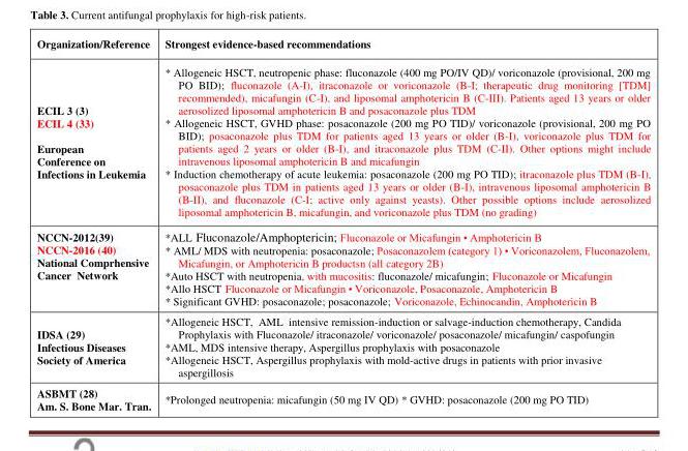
<table><thead><tr><td>Organization/Reference</td><td>Strongest evidence-based recommendations</td></tr></thead><tbody><tr><td>ECIL 3 (3) ECIL 4 (33) European Conference on Infections in Leukemia</td><td>* Allogeneic HSCT, neutropenic phase: fluconazole (400 mg PO/IV QD)/ voriconazole (provisional, 200 mg PO BID); fluconazole (A-I), itraconazole or voriconazole (B-I; therapeutic drug monitoring [TDM] recommended), micafungin (C-I), and liposomal amphotericin B (C-III). Patients aged 13 years or older aerosolized liposomal amphotericin B and posaconazole plus TDM * Allogeneic HSCT, GVHD phase: posaconazole (200 mg PO TID)/ voriconazole (provisional, 200 mg PO BID); posaconazole plus TDM for patients aged 13 years or older (B-I), voriconazole plus TDM for patients aged 2 years or older (B-I), and itraconazole plus TDM (C-II). Other options might include intravenous liposomal amphotericin B and micafungin * Induction chemotherapy of acute leukemia: posaconazole (200 mg PO TID); itraconazole plus TDM (B-I), posaconazole plus TDM in patients aged 13 years or older (B-I), intravenous liposomal amphotericin B (B-II), and fluconazole (C-I; active only against yeasts). Other possible options include aerosolized liposomal amphotericin B, micafungin, and voriconazole plus TDM (no grading)</td></tr><tr><td>NCCN-2012(39) NCCN-2016 (40) National Comprhensive Cancer Network</td><td>*ALL Fluconazole/Amphoptericin; Fluconazole or Micafungin • Amphotericin B * AML/ MDS with neutropenia: posaconazole; Posaconazolem (category 1) • Voriconazolem, Fluconazolem, Micafungin, or Amphotericin B productsn (all category 2B) *Auto HSCT with neutropenia, with mucositis: fluconazole/ micafungin; Fluconazole or Micafungin *Allo HSCT Fluconazole or Micafungin • Voriconazole, Posaconazole, Amphotericin B * Significant GVHD: posaconazole; posaconazole; Voriconazole, Echinocandin, Amphotericin B</td></tr><tr><td>IDSA (29) Infectious Diseases Society of America</td><td>*Allogeneic HSCT, AML intensive remission-induction or salvage-induction chemotherapy, Candida Prophylaxis with Fluconazole/ itraconazole/ voriconazole/ posaconazole/ micafungin/ caspofungin *AML, MDS intensive therapy, Aspergillus prophylaxis with posaconazole *Allogeneic HSCT, Aspergillus prophylaxis with mold-active drugs in patients with prior invasive aspergillosis</td></tr><tr><td>ASBMT (28) Am. S. Bone Mar. Tran.</td><td>*Prolonged neutropenia: micafungin (50 mg IV QD) * GVHD: posaconazole (200 mg PO TID)</td></tr></tbody></table>